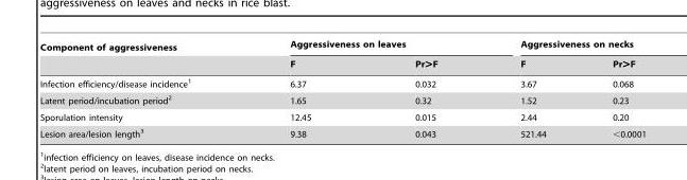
<table><thead><tr><td rowspan="2">Component of aggressiveness</td><td colspan="2">Aggressiveness on leaves</td><td colspan="2">Aggressiveness on necks</td></tr><tr><td>F</td><td>Pr&gt;F</td><td>F</td><td>Pr&gt;F</td></tr></thead><tbody><tr><td>Infection efficiency/disease incidence<sup>1</sup></td><td>6.37</td><td>0.032</td><td>3.67</td><td>0.068</td></tr><tr><td>Latent period/incubation period<sup>2</sup></td><td>1.65</td><td>0.32</td><td>1.52</td><td>0.23</td></tr><tr><td>Sporulation intensity</td><td>12.45</td><td>0.015</td><td>2.44</td><td>0.20</td></tr><tr><td>Lesion area/lesion length<sup>3</sup></td><td>9.38</td><td>0.043</td><td>521.44</td><td>&lt;0.0001</td></tr></tbody></table>